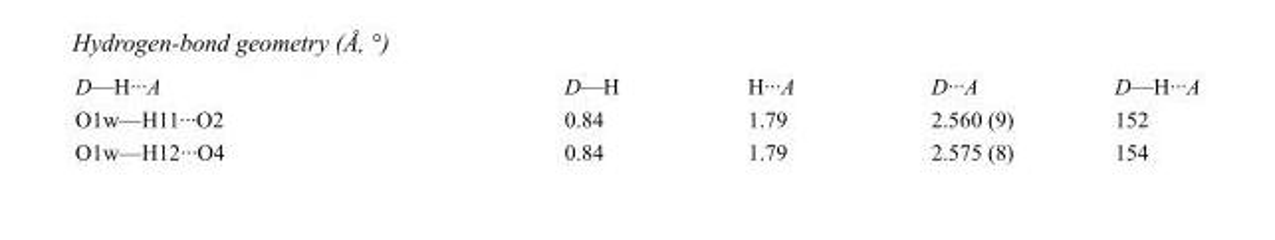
<table><tbody><tr><td>D—H···A</td><td>D—H</td><td>H···A</td><td>D···A</td><td>D—H···A</td></tr><tr><td>O1w—H11···O2</td><td>0.84</td><td>1.79</td><td>2.560 (9)</td><td>152</td></tr><tr><td>O1w—H12···O4</td><td>0.84</td><td>1.79</td><td>2.575 (8)</td><td>154</td></tr></tbody></table>